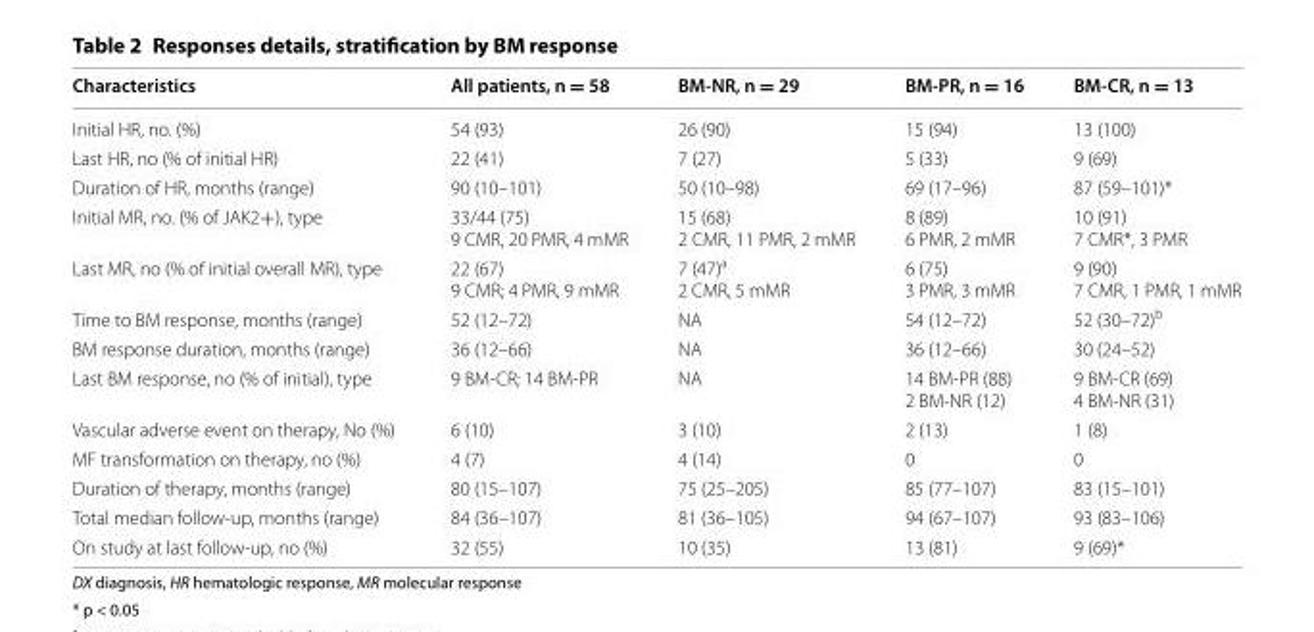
<table><thead><tr><td>Characteristics</td><td>All patients, n = 58</td><td>BM-NR, n = 29</td><td>BM-PR, n = 16</td><td>BM-CR, n = 13</td></tr></thead><tbody><tr><td>Initial HR, no. (%)</td><td>54 (93)</td><td>26 (90)</td><td>15 (94)</td><td>13 (100)</td></tr><tr><td>Last HR, no (% of initial HR)</td><td>22 (41)</td><td>7 (27)</td><td>5 (33)</td><td>9 (69)</td></tr><tr><td>Duration of HR, months (range)</td><td>90 (10–101)</td><td>50 (10–98)</td><td>69 (17–96)</td><td>87 (59–101)*</td></tr><tr><td>Initial MR, no. (% of JAK2+), type</td><td>33/44 (75) 9 CMR, 20 PMR, 4 mMR</td><td>15 (68) 2 CMR, 11 PMR, 2 mMR</td><td>8 (89) 6 PMR, 2 mMR</td><td>10 (91) 7 CMR*, 3 PMR</td></tr><tr><td>Last MR, no (% of initial overall MR), type</td><td>22 (67) 9 CMR; 4 PMR, 9 mMR</td><td>7 (47)<sup>a</sup> 2 CMR, 5 mMR</td><td>6 (75) 3 PMR, 3 mMR</td><td>9 (90) 7 CMR, 1 PMR, 1 mMR</td></tr><tr><td>Time to BM response, months (range)</td><td>52 (12–72)</td><td>NA</td><td>54 (12–72)</td><td>52 (30–72)<sup>b</sup></td></tr><tr><td>BM response duration, months (range)</td><td>36 (12–66)</td><td>NA</td><td>36 (12–66)</td><td>30 (24–52)</td></tr><tr><td>Last BM response, no (% of initial), type</td><td>9 BM‑CR; 14 BM‑PR</td><td>NA</td><td>14 BM‑PR (88) 2 BM‑NR (12)</td><td>9 BM‑CR (69) 4 BM‑NR (31)</td></tr><tr><td>Vascular adverse event on therapy, No (%)</td><td>6 (10)</td><td>3 (10)</td><td>2 (13)</td><td>1 (8)</td></tr><tr><td>MF transformation on therapy, no (%)</td><td>4 (7)</td><td>4 (14)</td><td>0</td><td>0</td></tr><tr><td>Duration of therapy, months (range)</td><td>80 (15–107)</td><td>75 (25–205)</td><td>85 (77–107)</td><td>83 (15–101)</td></tr><tr><td>Total median follow‑up, months (range)</td><td>84 (36–107)</td><td>81 (36–105)</td><td>94 (67–107)</td><td>93 (83–106)</td></tr><tr><td>On study at last follow‑up, no (%)</td><td>32 (55)</td><td>10 (35)</td><td>13 (81)</td><td>9 (69)*</td></tr></tbody></table>